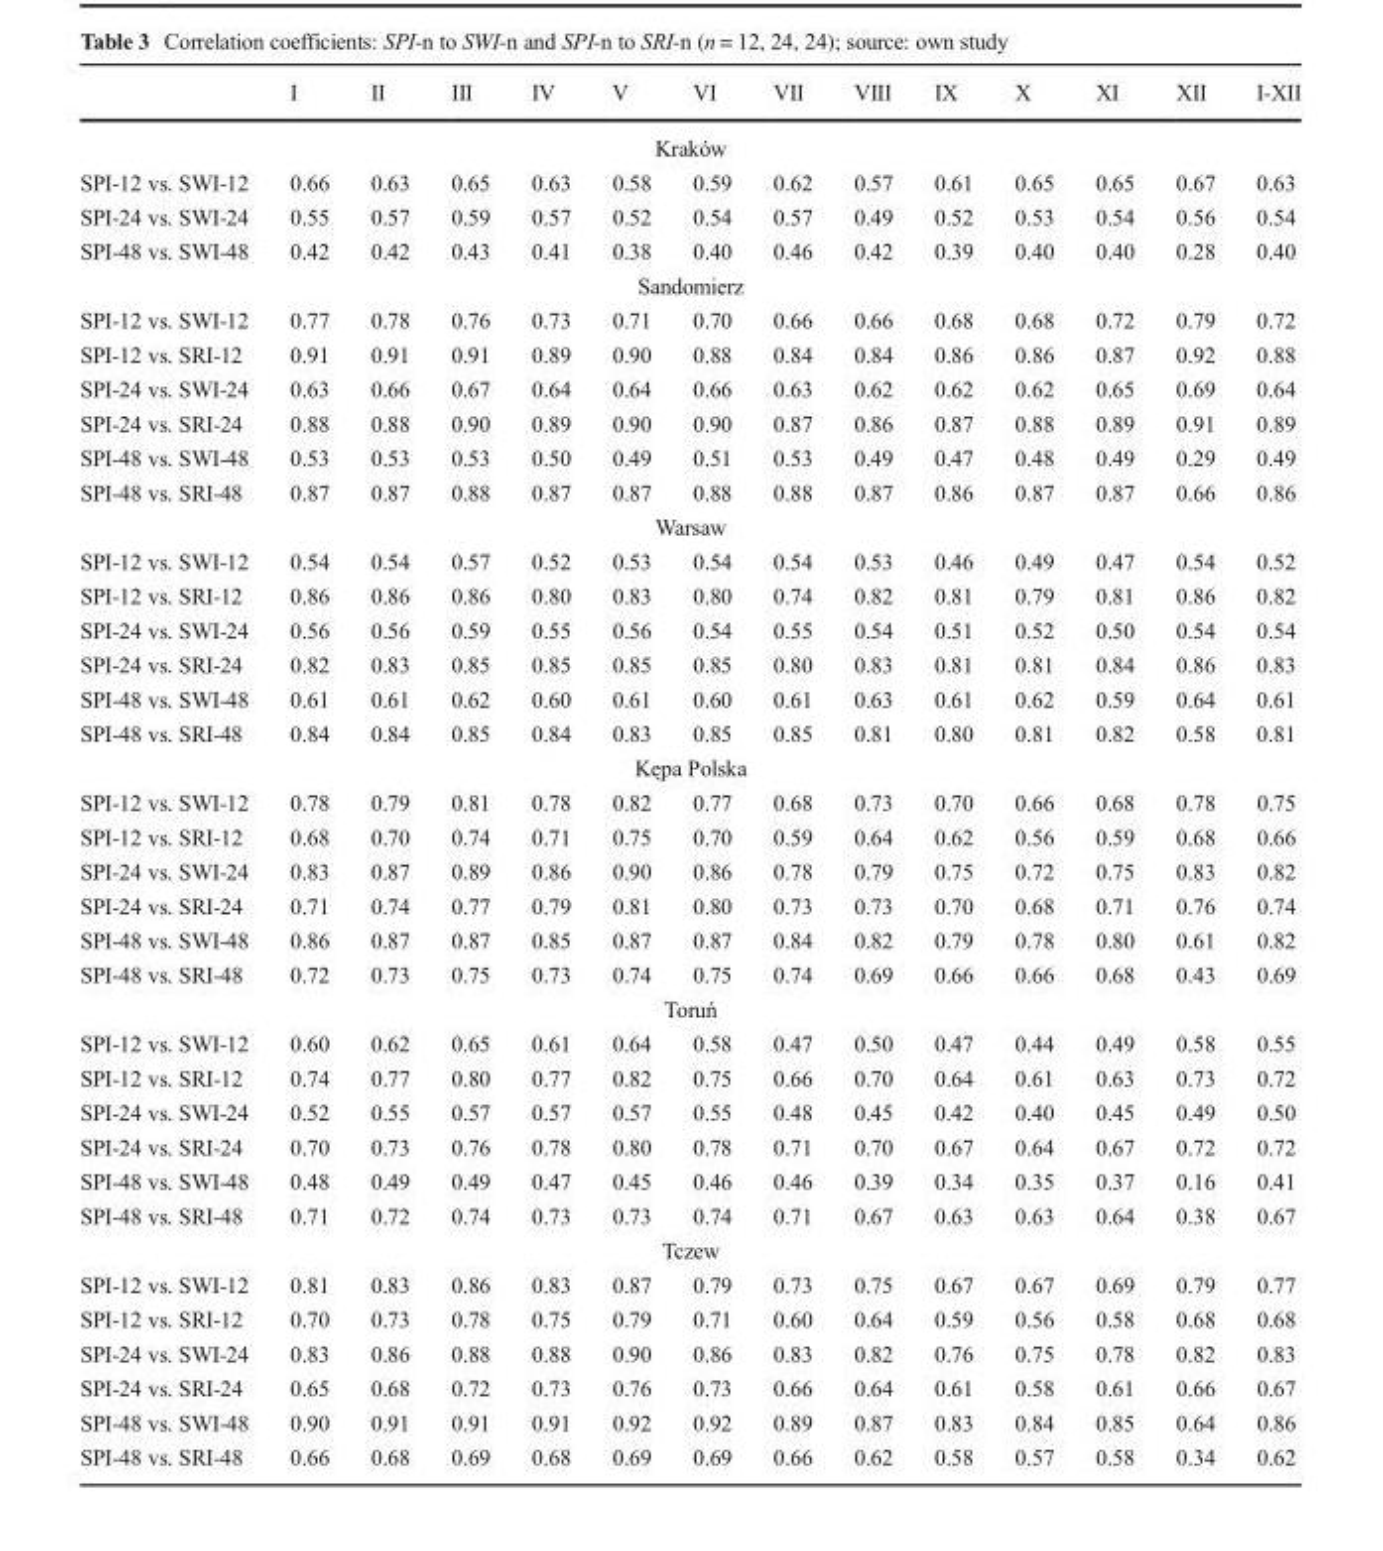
<table><thead><tr><td></td><td>I</td><td>II</td><td>III</td><td>IV</td><td>V</td><td>VI</td><td>VII</td><td>VIII</td><td>IX</td><td>X</td><td>XI</td><td>XII</td><td>I-XII</td></tr></thead><tbody><tr><td colspan="14">Kraków</td></tr><tr><td>SPI-12 vs. SWI-12</td><td>0.66</td><td>0.63</td><td>0.65</td><td>0.63</td><td>0.58</td><td>0.59</td><td>0.62</td><td>0.57</td><td>0.61</td><td>0.65</td><td>0.65</td><td>0.67</td><td>0.63</td></tr><tr><td>SPI-24 vs. SWI-24</td><td>0.55</td><td>0.57</td><td>0.59</td><td>0.57</td><td>0.52</td><td>0.54</td><td>0.57</td><td>0.49</td><td>0.52</td><td>0.53</td><td>0.54</td><td>0.56</td><td>0.54</td></tr><tr><td>SPI-48 vs. SWI-48</td><td>0.42</td><td>0.42</td><td>0.43</td><td>0.41</td><td>0.38</td><td>0.40</td><td>0.46</td><td>0.42</td><td>0.39</td><td>0.40</td><td>0.40</td><td>0.28</td><td>0.40</td></tr><tr><td colspan="14">Sandomierz</td></tr><tr><td>SPI-12 vs. SWI-12</td><td>0.77</td><td>0.78</td><td>0.76</td><td>0.73</td><td>0.71</td><td>0.70</td><td>0.66</td><td>0.66</td><td>0.68</td><td>0.68</td><td>0.72</td><td>0.79</td><td>0.72</td></tr><tr><td>SPI-12 vs. SRI-12</td><td>0.91</td><td>0.91</td><td>0.91</td><td>0.89</td><td>0.90</td><td>0.88</td><td>0.84</td><td>0.84</td><td>0.86</td><td>0.86</td><td>0.87</td><td>0.92</td><td>0.88</td></tr><tr><td>SPI-24 vs. SWI-24</td><td>0.63</td><td>0.66</td><td>0.67</td><td>0.64</td><td>0.64</td><td>0.66</td><td>0.63</td><td>0.62</td><td>0.62</td><td>0.62</td><td>0.65</td><td>0.69</td><td>0.64</td></tr><tr><td>SPI-24 vs. SRI-24</td><td>0.88</td><td>0.88</td><td>0.90</td><td>0.89</td><td>0.90</td><td>0.90</td><td>0.87</td><td>0.86</td><td>0.87</td><td>0.88</td><td>0.89</td><td>0.91</td><td>0.89</td></tr><tr><td>SPI-48 vs. SWI-48</td><td>0.53</td><td>0.53</td><td>0.53</td><td>0.50</td><td>0.49</td><td>0.51</td><td>0.53</td><td>0.49</td><td>0.47</td><td>0.48</td><td>0.49</td><td>0.29</td><td>0.49</td></tr><tr><td>SPI-48 vs. SRI-48</td><td>0.87</td><td>0.87</td><td>0.88</td><td>0.87</td><td>0.87</td><td>0.88</td><td>0.88</td><td>0.87</td><td>0.86</td><td>0.87</td><td>0.87</td><td>0.66</td><td>0.86</td></tr><tr><td colspan="14">Warsaw</td></tr><tr><td>SPI-12 vs. SWI-12</td><td>0.54</td><td>0.54</td><td>0.57</td><td>0.52</td><td>0.53</td><td>0.54</td><td>0.54</td><td>0.53</td><td>0.46</td><td>0.49</td><td>0.47</td><td>0.54</td><td>0.52</td></tr><tr><td>SPI-12 vs. SRI-12</td><td>0.86</td><td>0.86</td><td>0.86</td><td>0.80</td><td>0.83</td><td>0.80</td><td>0.74</td><td>0.82</td><td>0.81</td><td>0.79</td><td>0.81</td><td>0.86</td><td>0.82</td></tr><tr><td>SPI-24 vs. SWI-24</td><td>0.56</td><td>0.56</td><td>0.59</td><td>0.55</td><td>0.56</td><td>0.54</td><td>0.55</td><td>0.54</td><td>0.51</td><td>0.52</td><td>0.50</td><td>0.54</td><td>0.54</td></tr><tr><td>SPI-24 vs. SRI-24</td><td>0.82</td><td>0.83</td><td>0.85</td><td>0.85</td><td>0.85</td><td>0.85</td><td>0.80</td><td>0.83</td><td>0.81</td><td>0.81</td><td>0.84</td><td>0.86</td><td>0.83</td></tr><tr><td>SPI-48 vs. SWI-48</td><td>0.61</td><td>0.61</td><td>0.62</td><td>0.60</td><td>0.61</td><td>0.60</td><td>0.61</td><td>0.63</td><td>0.61</td><td>0.62</td><td>0.59</td><td>0.64</td><td>0.61</td></tr><tr><td>SPI-48 vs. SRI-48</td><td>0.84</td><td>0.84</td><td>0.85</td><td>0.84</td><td>0.83</td><td>0.85</td><td>0.85</td><td>0.81</td><td>0.80</td><td>0.81</td><td>0.82</td><td>0.58</td><td>0.81</td></tr><tr><td colspan="14">Kępa Polska</td></tr><tr><td>SPI-12 vs. SWI-12</td><td>0.78</td><td>0.79</td><td>0.81</td><td>0.78</td><td>0.82</td><td>0.77</td><td>0.68</td><td>0.73</td><td>0.70</td><td>0.66</td><td>0.68</td><td>0.78</td><td>0.75</td></tr><tr><td>SPI-12 vs. SRI-12</td><td>0.68</td><td>0.70</td><td>0.74</td><td>0.71</td><td>0.75</td><td>0.70</td><td>0.59</td><td>0.64</td><td>0.62</td><td>0.56</td><td>0.59</td><td>0.68</td><td>0.66</td></tr><tr><td>SPI-24 vs. SWI-24</td><td>0.83</td><td>0.87</td><td>0.89</td><td>0.86</td><td>0.90</td><td>0.86</td><td>0.78</td><td>0.79</td><td>0.75</td><td>0.72</td><td>0.75</td><td>0.83</td><td>0.82</td></tr><tr><td>SPI-24 vs. SRI-24</td><td>0.71</td><td>0.74</td><td>0.77</td><td>0.79</td><td>0.81</td><td>0.80</td><td>0.73</td><td>0.73</td><td>0.70</td><td>0.68</td><td>0.71</td><td>0.76</td><td>0.74</td></tr><tr><td>SPI-48 vs. SWI-48</td><td>0.86</td><td>0.87</td><td>0.87</td><td>0.85</td><td>0.87</td><td>0.87</td><td>0.84</td><td>0.82</td><td>0.79</td><td>0.78</td><td>0.80</td><td>0.61</td><td>0.82</td></tr><tr><td>SPI-48 vs. SRI-48</td><td>0.72</td><td>0.73</td><td>0.75</td><td>0.73</td><td>0.74</td><td>0.75</td><td>0.74</td><td>0.69</td><td>0.66</td><td>0.66</td><td>0.68</td><td>0.43</td><td>0.69</td></tr><tr><td colspan="14">Toruń</td></tr><tr><td>SPI-12 vs. SWI-12</td><td>0.60</td><td>0.62</td><td>0.65</td><td>0.61</td><td>0.64</td><td>0.58</td><td>0.47</td><td>0.50</td><td>0.47</td><td>0.44</td><td>0.49</td><td>0.58</td><td>0.55</td></tr><tr><td>SPI-12 vs. SRI-12</td><td>0.74</td><td>0.77</td><td>0.80</td><td>0.77</td><td>0.82</td><td>0.75</td><td>0.66</td><td>0.70</td><td>0.64</td><td>0.61</td><td>0.63</td><td>0.73</td><td>0.72</td></tr><tr><td>SPI-24 vs. SWI-24</td><td>0.52</td><td>0.55</td><td>0.57</td><td>0.57</td><td>0.57</td><td>0.55</td><td>0.48</td><td>0.45</td><td>0.42</td><td>0.40</td><td>0.45</td><td>0.49</td><td>0.50</td></tr><tr><td>SPI-24 vs. SRI-24</td><td>0.70</td><td>0.73</td><td>0.76</td><td>0.78</td><td>0.80</td><td>0.78</td><td>0.71</td><td>0.70</td><td>0.67</td><td>0.64</td><td>0.67</td><td>0.72</td><td>0.72</td></tr><tr><td>SPI-48 vs. SWI-48</td><td>0.48</td><td>0.49</td><td>0.49</td><td>0.47</td><td>0.45</td><td>0.46</td><td>0.46</td><td>0.39</td><td>0.34</td><td>0.35</td><td>0.37</td><td>0.16</td><td>0.41</td></tr><tr><td>SPI-48 vs. SRI-48</td><td>0.71</td><td>0.72</td><td>0.74</td><td>0.73</td><td>0.73</td><td>0.74</td><td>0.71</td><td>0.67</td><td>0.63</td><td>0.63</td><td>0.64</td><td>0.38</td><td>0.67</td></tr><tr><td colspan="14">Tczew</td></tr><tr><td>SPI-12 vs. SWI-12</td><td>0.81</td><td>0.83</td><td>0.86</td><td>0.83</td><td>0.87</td><td>0.79</td><td>0.73</td><td>0.75</td><td>0.67</td><td>0.67</td><td>0.69</td><td>0.79</td><td>0.77</td></tr><tr><td>SPI-12 vs. SRI-12</td><td>0.70</td><td>0.73</td><td>0.78</td><td>0.75</td><td>0.79</td><td>0.71</td><td>0.60</td><td>0.64</td><td>0.59</td><td>0.56</td><td>0.58</td><td>0.68</td><td>0.68</td></tr><tr><td>SPI-24 vs. SWI-24</td><td>0.83</td><td>0.86</td><td>0.88</td><td>0.88</td><td>0.90</td><td>0.86</td><td>0.83</td><td>0.82</td><td>0.76</td><td>0.75</td><td>0.78</td><td>0.82</td><td>0.83</td></tr><tr><td>SPI-24 vs. SRI-24</td><td>0.65</td><td>0.68</td><td>0.72</td><td>0.73</td><td>0.76</td><td>0.73</td><td>0.66</td><td>0.64</td><td>0.61</td><td>0.58</td><td>0.61</td><td>0.66</td><td>0.67</td></tr><tr><td>SPI-48 vs. SWI-48</td><td>0.90</td><td>0.91</td><td>0.91</td><td>0.91</td><td>0.92</td><td>0.92</td><td>0.89</td><td>0.87</td><td>0.83</td><td>0.84</td><td>0.85</td><td>0.64</td><td>0.86</td></tr><tr><td>SPI-48 vs. SRI-48</td><td>0.66</td><td>0.68</td><td>0.69</td><td>0.68</td><td>0.69</td><td>0.69</td><td>0.66</td><td>0.62</td><td>0.58</td><td>0.57</td><td>0.58</td><td>0.34</td><td>0.62</td></tr></tbody></table>